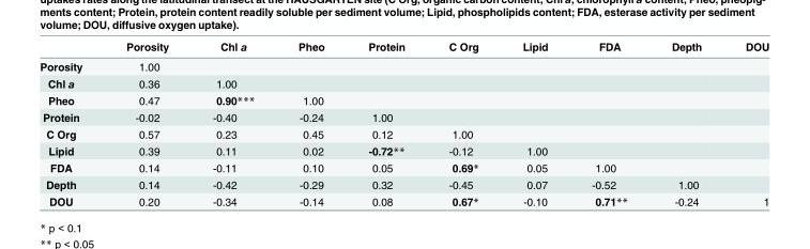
<table><thead><tr><td></td><td>Porosity</td><td>Chl a</td><td>Pheo</td><td>Protein</td><td>C Org</td><td>Lipid</td><td>FDA</td><td>Depth</td><td>DOU</td></tr></thead><tbody><tr><td>Porosity</td><td>1.00</td><td></td><td></td><td></td><td></td><td></td><td></td><td></td><td></td></tr><tr><td>Chl a</td><td>0.36</td><td>1.00</td><td></td><td></td><td></td><td></td><td></td><td></td><td></td></tr><tr><td>Pheo</td><td>0.47</td><td>0.90***</td><td>1.00</td><td></td><td></td><td></td><td></td><td></td><td></td></tr><tr><td>Protein</td><td>-0.02</td><td>-0.40</td><td>-0.24</td><td>1.00</td><td></td><td></td><td></td><td></td><td></td></tr><tr><td>C Org</td><td>0.57</td><td>0.23</td><td>0.45</td><td>0.12</td><td>1.00</td><td></td><td></td><td></td><td></td></tr><tr><td>Lipid</td><td>0.39</td><td>0.11</td><td>0.02</td><td>-0.72**</td><td>-0.12</td><td>1.00</td><td></td><td></td><td></td></tr><tr><td>FDA</td><td>0.14</td><td>-0.11</td><td>0.10</td><td>0.05</td><td>0.69*</td><td>0.05</td><td>1.00</td><td></td><td></td></tr><tr><td>Depth</td><td>0.14</td><td>-0.42</td><td>-0.29</td><td>0.32</td><td>-0.45</td><td>0.07</td><td>-0.52</td><td>1.00</td><td></td></tr><tr><td>DOU</td><td>0.20</td><td>-0.34</td><td>-0.14</td><td>0.08</td><td>0.67*</td><td>-0.10</td><td>0.71**</td><td>-0.24</td><td>1</td></tr></tbody></table>